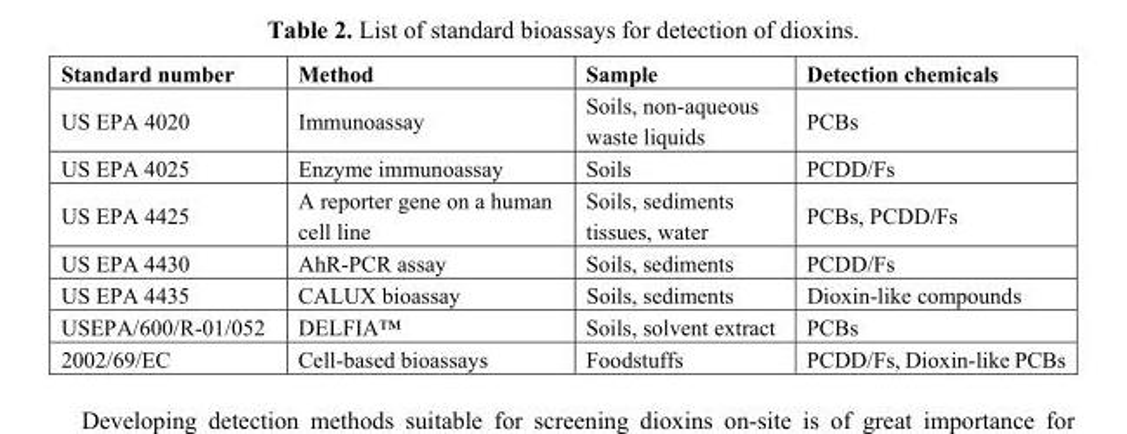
<table><thead><tr><td>Standard number</td><td>Method</td><td>Sample</td><td>Detection chemicals</td></tr></thead><tbody><tr><td>US EPA 4020</td><td>Immunoassay</td><td>Soils, non-aqueous waste liquids</td><td>PCBs</td></tr><tr><td>US EPA 4025</td><td>Enzyme immunoassay</td><td>Soils</td><td>PCDD/Fs</td></tr><tr><td>US EPA 4425</td><td>A reporter gene on a human cell line</td><td>Soils, sediments tissues, water</td><td>PCBs, PCDD/Fs</td></tr><tr><td>US EPA 4430</td><td>AhR-PCR assay</td><td>Soils, sediments</td><td>PCDD/Fs</td></tr><tr><td>US EPA 4435</td><td>CALUX bioassay</td><td>Soils, sediments</td><td>Dioxin-like compounds</td></tr><tr><td>USEPA/600/R-01/052</td><td>DELFIA™</td><td>Soils, solvent extract</td><td>PCBs</td></tr><tr><td>2002/69/EC</td><td>Cell-based bioassays</td><td>Foodstuffs</td><td>PCDD/Fs, Dioxin-like PCBs</td></tr></tbody></table>